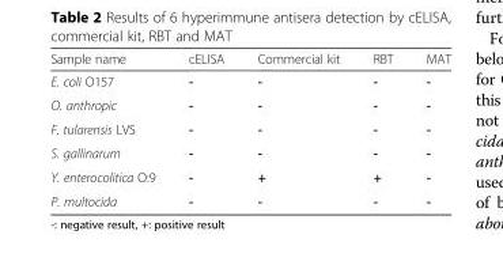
<table><thead><tr><td>Sample name</td><td>cELISA</td><td>Commercial kit</td><td>RBT</td><td>MAT</td></tr></thead><tbody><tr><td>E. coli O157</td><td>-</td><td>-</td><td>-</td><td>-</td></tr><tr><td>O. anthropic</td><td>-</td><td>-</td><td>-</td><td>-</td></tr><tr><td>F. tularensis LVS</td><td>-</td><td>-</td><td>-</td><td>-</td></tr><tr><td>S. gallinarum</td><td>-</td><td>-</td><td>-</td><td>-</td></tr><tr><td>Y. enterocolitica O:9</td><td>-</td><td>+</td><td>+</td><td>-</td></tr><tr><td>P. multocida</td><td>-</td><td>-</td><td>-</td><td>-</td></tr></tbody></table>